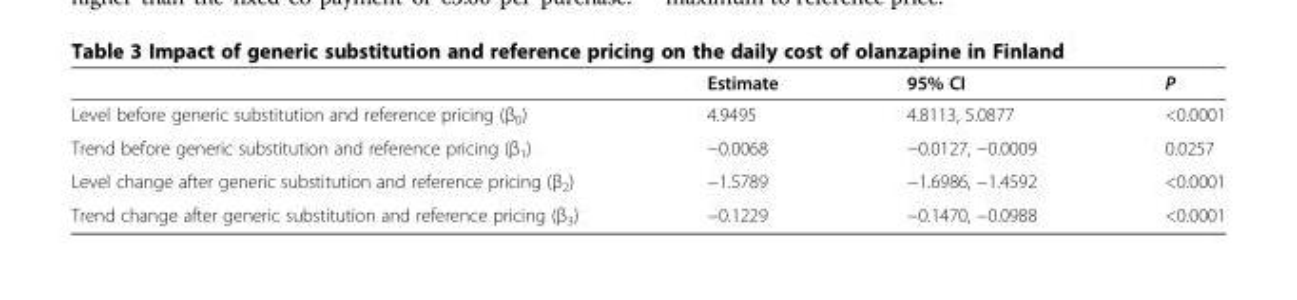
<table><thead><tr><td></td><td>Estimate</td><td>95% CI</td><td>P</td></tr></thead><tbody><tr><td>Level before generic substitution and reference pricing (β<sub>0</sub>)</td><td>4.9495</td><td>4.8113, 5.0877</td><td>&lt;0.0001</td></tr><tr><td>Trend before generic substitution and reference pricing (β<sub>1</sub>)</td><td>−0.0068</td><td>−0.0127, −0.0009</td><td>0.0257</td></tr><tr><td>Level change after generic substitution and reference pricing (β<sub>2</sub>)</td><td>−1.5789</td><td>−1.6986, −1.4592</td><td>&lt;0.0001</td></tr><tr><td>Trend change after generic substitution and reference pricing (β<sub>3</sub>)</td><td>−0.1229</td><td>−0.1470, −0.0988</td><td>&lt;0.0001</td></tr></tbody></table>